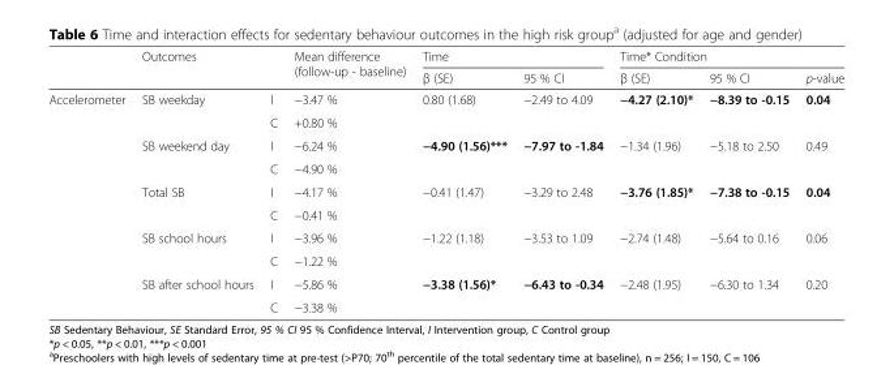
<table><thead><tr><td rowspan="2"></td><td rowspan="2">Outcomes</td><td rowspan="2"></td><td rowspan="2">Mean difference (follow-up - baseline)</td><td colspan="2">Time</td><td colspan="3">Time* Condition</td></tr><tr><td>β (SE)</td><td>95 % CI</td><td>β (SE)</td><td>95 % CI</td><td>p-value</td></tr></thead><tbody><tr><td rowspan="10">Accelerometer</td><td>SB weekday</td><td>I</td><td>−3.47 %</td><td rowspan="2">0.80 (1.68)</td><td rowspan="2">−2.49 to 4.09</td><td rowspan="2">−4.27 (2.10)*</td><td rowspan="2">−8.39 to -0.15</td><td rowspan="2">0.04</td></tr><tr><td></td><td>C</td><td>+0.80 %</td></tr><tr><td>SB weekend day</td><td>I</td><td>−6.24 %</td><td rowspan="2">−4.90 (1.56)***</td><td rowspan="2">−7.97 to -1.84</td><td rowspan="2">−1.34 (1.96)</td><td rowspan="2">−5.18 to 2.50</td><td rowspan="2">0.49</td></tr><tr><td></td><td>C</td><td>−4.90 %</td></tr><tr><td>Total SB</td><td>I</td><td>−4.17 %</td><td rowspan="2">−0.41 (1.47)</td><td rowspan="2">−3.29 to 2.48</td><td rowspan="2">−3.76 (1.85)*</td><td rowspan="2">−7.38 to -0.15</td><td rowspan="2">0.04</td></tr><tr><td></td><td>C</td><td>−0.41 %</td></tr><tr><td>SB school hours</td><td>I</td><td>−3.96 %</td><td rowspan="2">−1.22 (1.18)</td><td rowspan="2">−3.53 to 1.09</td><td rowspan="2">−2.74 (1.48)</td><td rowspan="2">−5.64 to 0.16</td><td rowspan="2">0.06</td></tr><tr><td></td><td>C</td><td>−1.22 %</td></tr><tr><td>SB after school hours</td><td>I</td><td>−5.86 %</td><td rowspan="2">−3.38 (1.56)*</td><td rowspan="2">−6.43 to -0.34</td><td rowspan="2">−2.48 (1.95)</td><td rowspan="2">−6.30 to 1.34</td><td rowspan="2">0.20</td></tr><tr><td></td><td>C</td><td>−3.38 %</td></tr></tbody></table>